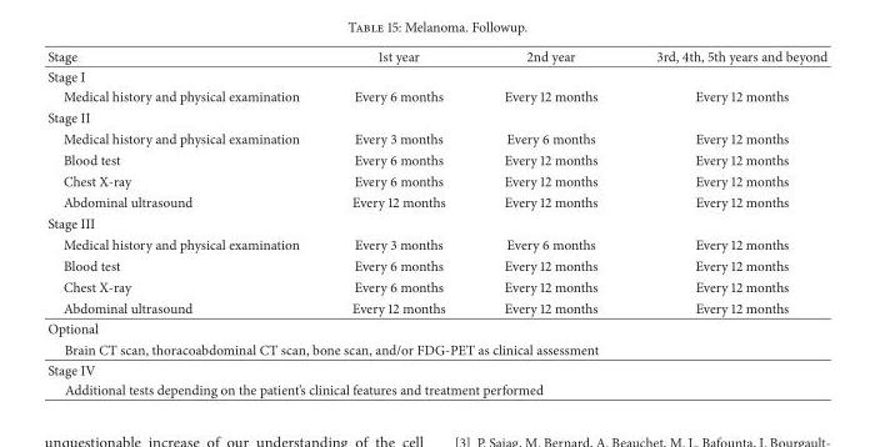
<table><thead><tr><td>Stage</td><td>1st year</td><td>2nd year</td><td>3rd, 4th, 5th years and beyond</td></tr></thead><tbody><tr><td colspan="4">Stage I</td></tr><tr><td>Medical history and physical examination</td><td>Every 6 months</td><td>Every 12 months</td><td>Every 12 months</td></tr><tr><td colspan="4">Stage II</td></tr><tr><td>Medical history and physical examination</td><td>Every 3 months</td><td>Every 6 months</td><td>Every 12 months</td></tr><tr><td>Blood test</td><td>Every 6 months</td><td>Every 12 months</td><td>Every 12 months</td></tr><tr><td>Chest X-ray</td><td>Every 6 months</td><td>Every 12 months</td><td>Every 12 months</td></tr><tr><td>Abdominal ultrasound</td><td>Every 12 months</td><td>Every 12 months</td><td>Every 12 months</td></tr><tr><td colspan="4">Stage III</td></tr><tr><td>Medical history and physical examination</td><td>Every 3 months</td><td>Every 6 months</td><td>Every 12 months</td></tr><tr><td>Blood test</td><td>Every 6 months</td><td>Every 12 months</td><td>Every 12 months</td></tr><tr><td>Chest X-ray</td><td>Every 6 months</td><td>Every 12 months</td><td>Every 12 months</td></tr><tr><td>Abdominal ultrasound</td><td>Every 12 months</td><td>Every 12 months</td><td>Every 12 months</td></tr><tr><td colspan="4">Optional</td></tr><tr><td colspan="4">Brain CT scan, thoracoabdominal CT scan, bone scan, and/or FDG-PET as clinical assessment</td></tr><tr><td colspan="4">Stage IV</td></tr><tr><td colspan="4">Additional tests depending on the patient’s clinical features and treatment performed</td></tr></tbody></table>